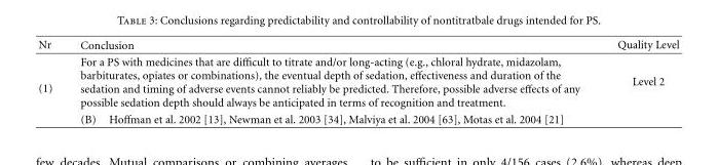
<table><thead><tr><td>Nr</td><td>Conclusion</td><td>Quality Level</td></tr></thead><tbody><tr><td rowspan="2">(1)</td><td>For a PS with medicines that are difficult to titrate and/or long-acting (e.g., chloral hydrate, midazolam, barbiturates, opiates or combinations), the eventual depth of sedation, effectiveness and duration of the sedation and timing of adverse events cannot reliably be predicted. Therefore, possible adverse effects of any possible sedation depth should always be anticipated in terms of recognition and treatment.</td><td>Level 2</td></tr><tr><td>(B) Hoffman et al. 2002 [13], Newman et al. 2003 [34], Malviya et al. 2004 [63], Motas et al. 2004 [21]</td><td></td></tr></tbody></table>